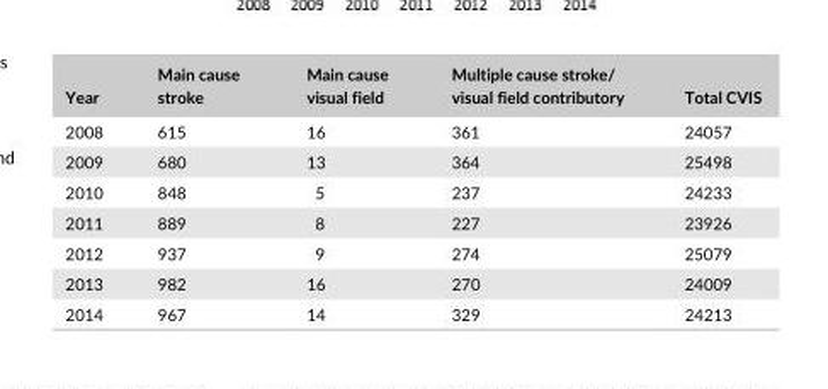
<table><thead><tr><td>Year</td><td>Main cause stroke</td><td>Main cause visual field</td><td>Multiple cause stroke/ visual field contributory</td><td>Total CVIS</td></tr></thead><tbody><tr><td>2008</td><td>615</td><td>16</td><td>361</td><td>24057</td></tr><tr><td>2009</td><td>680</td><td>13</td><td>364</td><td>25498</td></tr><tr><td>2010</td><td>848</td><td>5</td><td>237</td><td>24233</td></tr><tr><td>2011</td><td>889</td><td>8</td><td>227</td><td>23926</td></tr><tr><td>2012</td><td>937</td><td>9</td><td>274</td><td>25079</td></tr><tr><td>2013</td><td>982</td><td>16</td><td>270</td><td>24009</td></tr><tr><td>2014</td><td>967</td><td>14</td><td>329</td><td>24213</td></tr></tbody></table>